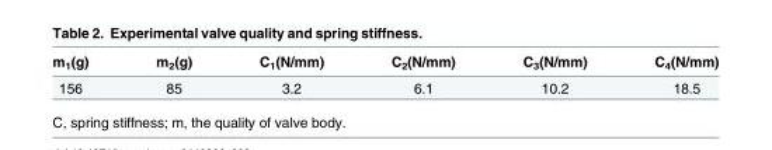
<table><thead><tr><td>m<sub>1</sub>(g)</td><td>m<sub>2</sub>(g)</td><td>C<sub>1</sub>(N/mm)</td><td>C<sub>2</sub>(N/mm)</td><td>C<sub>3</sub>(N/mm)</td><td>C<sub>4</sub>(N/mm)</td></tr></thead><tbody><tr><td>156</td><td>85</td><td>3.2</td><td>6.1</td><td>10.2</td><td>18.5</td></tr></tbody></table>